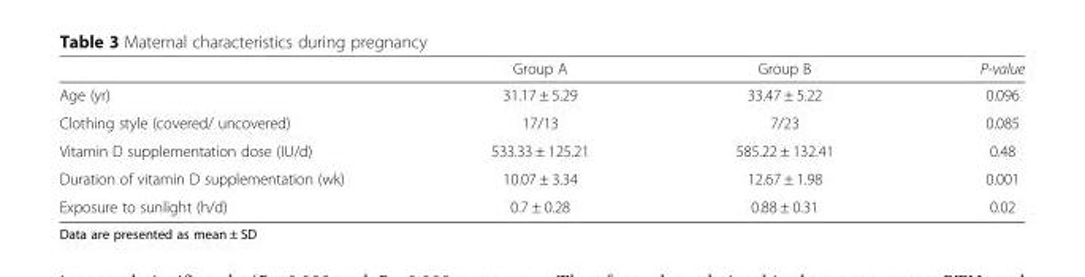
<table><thead><tr><td></td><td>Group A</td><td>Group B</td><td>P-value</td></tr></thead><tbody><tr><td>Age (yr)</td><td>31.17 ± 5.29</td><td>33.47 ± 5.22</td><td>0.096</td></tr><tr><td>Clothing style (covered/ uncovered)</td><td>17/13</td><td>7/23</td><td>0.085</td></tr><tr><td>Vitamin D supplementation dose (IU/d)</td><td>533.33 ± 125.21</td><td>585.22 ± 132.41</td><td>0.48</td></tr><tr><td>Duration of vitamin D supplementation (wk)</td><td>10.07 ± 3.34</td><td>12.67 ± 1.98</td><td>0.001</td></tr><tr><td>Exposure to sunlight (h/d)</td><td>0.7 ± 0.28</td><td>0.88 ± 0.31</td><td>0.02</td></tr></tbody></table>